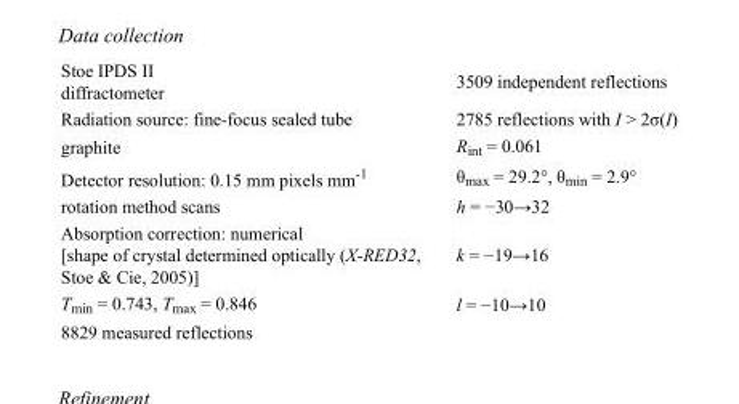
<table><tbody><tr><td>Stoe IPDS II diffractometer</td><td>3509 independent reflections</td></tr><tr><td>Radiation source: fine-focus sealed tube</td><td>2785 reflections with I &gt; 2σ(I)</td></tr><tr><td>graphite</td><td>R<sub>int</sub> = 0.061</td></tr><tr><td>Detector resolution: 0.15 mm pixels mm<sup>-1</sup></td><td>θ<sub>max</sub> = 29.2°, θ<sub>min</sub> = 2.9°</td></tr><tr><td>rotation method scans</td><td>h = −30→32</td></tr><tr><td>Absorption correction: numerical [shape of crystal determined optically (X-RED32, Stoe &amp; Cie, 2005)]</td><td>k = −19→16</td></tr><tr><td>T<sub>min</sub> = 0.743, T<sub>max</sub> = 0.846</td><td>l = −10→10</td></tr><tr><td>8829 measured reflections</td><td></td></tr></tbody></table>